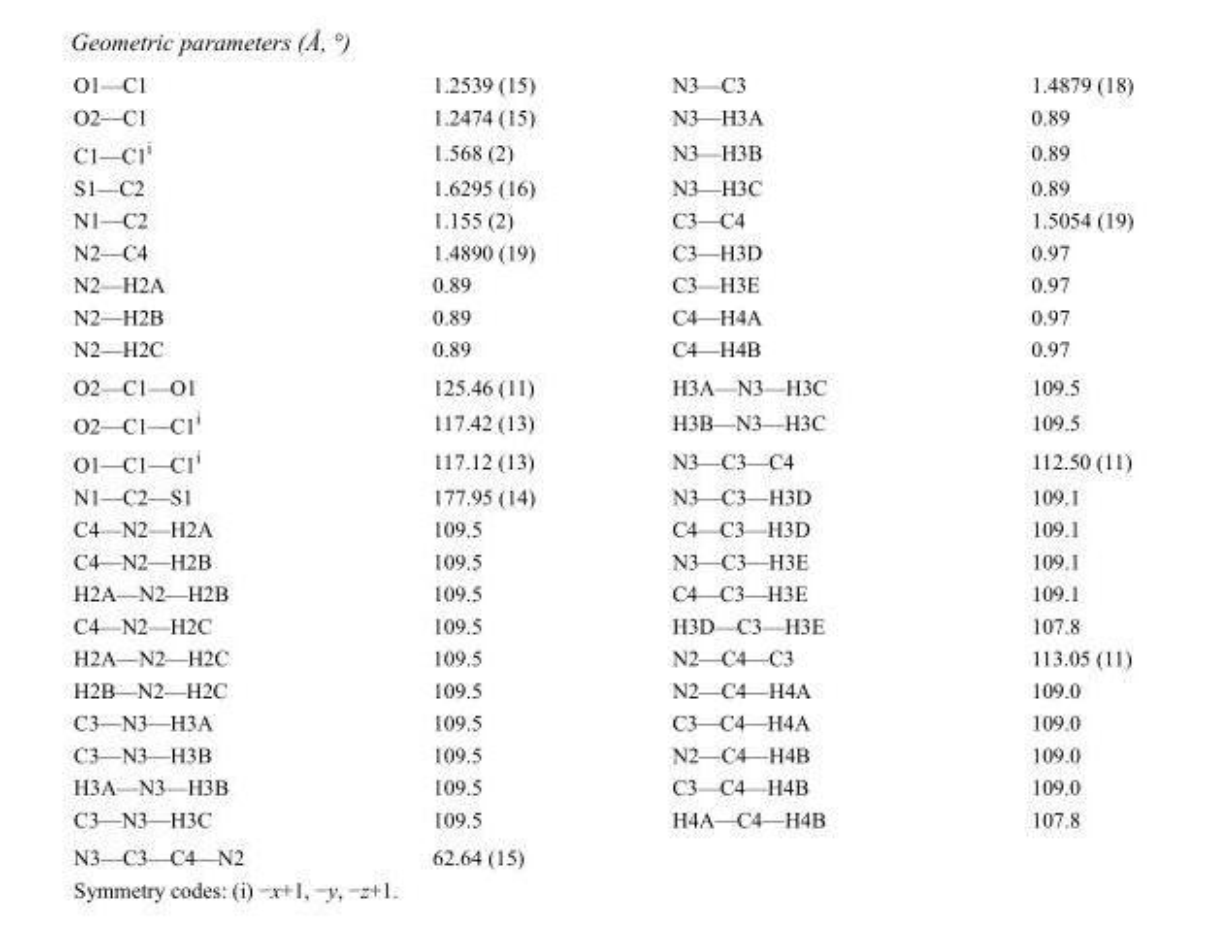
<table><tbody><tr><td>O1—C1</td><td>1.2539 (15)</td><td>N3—C3</td><td>1.4879 (18)</td></tr><tr><td>O2—C1</td><td>1.2474 (15)</td><td>N3—H3A</td><td>0.89</td></tr><tr><td>C1—C1<sup>i</sup></td><td>1.568 (2)</td><td>N3—H3B</td><td>0.89</td></tr><tr><td>S1—C2</td><td>1.6295 (16)</td><td>N3—H3C</td><td>0.89</td></tr><tr><td>N1—C2</td><td>1.155 (2)</td><td>C3—C4</td><td>1.5054 (19)</td></tr><tr><td>N2—C4</td><td>1.4890 (19)</td><td>C3—H3D</td><td>0.97</td></tr><tr><td>N2—H2A</td><td>0.89</td><td>C3—H3E</td><td>0.97</td></tr><tr><td>N2—H2B</td><td>0.89</td><td>C4—H4A</td><td>0.97</td></tr><tr><td>N2—H2C</td><td>0.89</td><td>C4—H4B</td><td>0.97</td></tr><tr><td>O2—C1—O1</td><td>125.46 (11)</td><td>H3A—N3—H3C</td><td>109.5</td></tr><tr><td>O2—C1—C1<sup>i</sup></td><td>117.42 (13)</td><td>H3B—N3—H3C</td><td>109.5</td></tr><tr><td>O1—C1—C1<sup>i</sup></td><td>117.12 (13)</td><td>N3—C3—C4</td><td>112.50 (11)</td></tr><tr><td>N1—C2—S1</td><td>177.95 (14)</td><td>N3—C3—H3D</td><td>109.1</td></tr><tr><td>C4—N2—H2A</td><td>109.5</td><td>C4—C3—H3D</td><td>109.1</td></tr><tr><td>C4—N2—H2B</td><td>109.5</td><td>N3—C3—H3E</td><td>109.1</td></tr><tr><td>H2A—N2—H2B</td><td>109.5</td><td>C4—C3—H3E</td><td>109.1</td></tr><tr><td>C4—N2—H2C</td><td>109.5</td><td>H3D—C3—H3E</td><td>107.8</td></tr><tr><td>H2A—N2—H2C</td><td>109.5</td><td>N2—C4—C3</td><td>113.05 (11)</td></tr><tr><td>H2B—N2—H2C</td><td>109.5</td><td>N2—C4—H4A</td><td>109.0</td></tr><tr><td>C3—N3—H3A</td><td>109.5</td><td>C3—C4—H4A</td><td>109.0</td></tr><tr><td>C3—N3—H3B</td><td>109.5</td><td>N2—C4—H4B</td><td>109.0</td></tr><tr><td>H3A—N3—H3B</td><td>109.5</td><td>C3—C4—H4B</td><td>109.0</td></tr><tr><td>C3—N3—H3C</td><td>109.5</td><td>H4A—C4—H4B</td><td>107.8</td></tr><tr><td>N3—C3—C4—N2</td><td>62.64 (15)</td><td></td><td></td></tr></tbody></table>